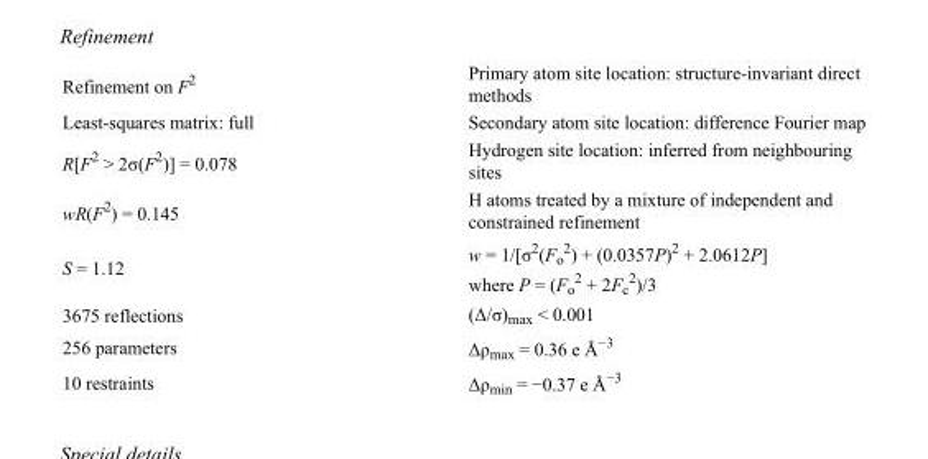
<table><tbody><tr><td>Refinement on F<sup>2</sup></td><td>Primary atom site location: structure-invariant direct methods</td></tr><tr><td>Least-squares matrix: full</td><td>Secondary atom site location: difference Fourier map</td></tr><tr><td>R[F<sup>2</sup> &gt; 2σ(F<sup>2</sup>)] = 0.078</td><td>Hydrogen site location: inferred from neighbouring sites</td></tr><tr><td>wR(F<sup>2</sup>) = 0.145</td><td>H atoms treated by a mixture of independent and constrained refinement</td></tr><tr><td>S = 1.12</td><td>w = 1/[σ<sup>2</sup>(F<sub>o</sub> <sup>2</sup>) + (0.0357P)<sup>2</sup> + 2.0612P] where P = (F<sub>o</sub> <sup>2</sup> + 2F<sub>c</sub> <sup>2</sup>)/3</td></tr><tr><td>3675 reflections</td><td>(Δ/σ)<sub>max</sub> &lt; 0.001</td></tr><tr><td>256 parameters</td><td>Δρ<sub>max</sub> = 0.36 e Å<sup>−3</sup></td></tr><tr><td>10 restraints</td><td>Δρ<sub>min</sub> = −0.37 e Å<sup>−3</sup></td></tr></tbody></table>